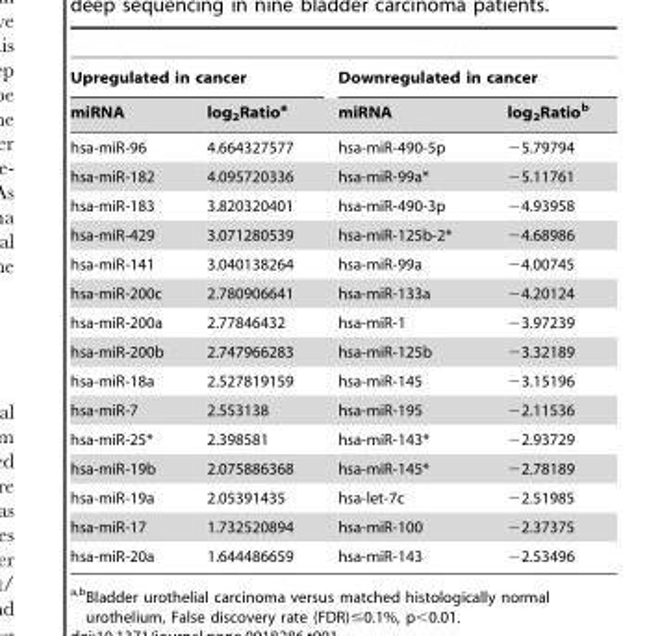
<table><thead><tr><td colspan="2">Upregulated in cancer</td><td colspan="2">Downregulated in cancer</td></tr><tr><td>miRNA</td><td>log<sub>2</sub>Ratio<sup>a</sup></td><td>miRNA</td><td>log<sub>2</sub>Ratio<sup>b</sup></td></tr></thead><tbody><tr><td>hsa-miR-96</td><td>4.664327577</td><td>hsa-miR-490-5p</td><td>−5.79794</td></tr><tr><td>hsa-miR-182</td><td>4.095720336</td><td>hsa-miR-99a*</td><td>−5.11761</td></tr><tr><td>hsa-miR-183</td><td>3.820320401</td><td>hsa-miR-490-3p</td><td>−4.93958</td></tr><tr><td>hsa-miR-429</td><td>3.071280539</td><td>hsa-miR-125b-2*</td><td>−4.68986</td></tr><tr><td>hsa-miR-141</td><td>3.040138264</td><td>hsa-miR-99a</td><td>−4.00745</td></tr><tr><td>hsa-miR-200c</td><td>2.780906641</td><td>hsa-miR-133a</td><td>−4.20124</td></tr><tr><td>hsa-miR-200a</td><td>2.77846432</td><td>hsa-miR-1</td><td>−3.97239</td></tr><tr><td>hsa-miR-200b</td><td>2.747966283</td><td>hsa-miR-125b</td><td>−3.32189</td></tr><tr><td>hsa-miR-18a</td><td>2.527819159</td><td>hsa-miR-145</td><td>−3.15196</td></tr><tr><td>hsa-miR-7</td><td>2.553138</td><td>hsa-miR-195</td><td>−2.11536</td></tr><tr><td>hsa-miR-25*</td><td>2.398581</td><td>hsa-miR-143*</td><td>−2.93729</td></tr><tr><td>hsa-miR-19b</td><td>2.075886368</td><td>hsa-miR-145*</td><td>−2.78189</td></tr><tr><td>hsa-miR-19a</td><td>2.05391435</td><td>hsa-let-7c</td><td>−2.51985</td></tr><tr><td>hsa-miR-17</td><td>1.732520894</td><td>hsa-miR-100</td><td>−2.37375</td></tr><tr><td>hsa-miR-20a</td><td>1.644486659</td><td>hsa-miR-143</td><td>−2.53496</td></tr></tbody></table>